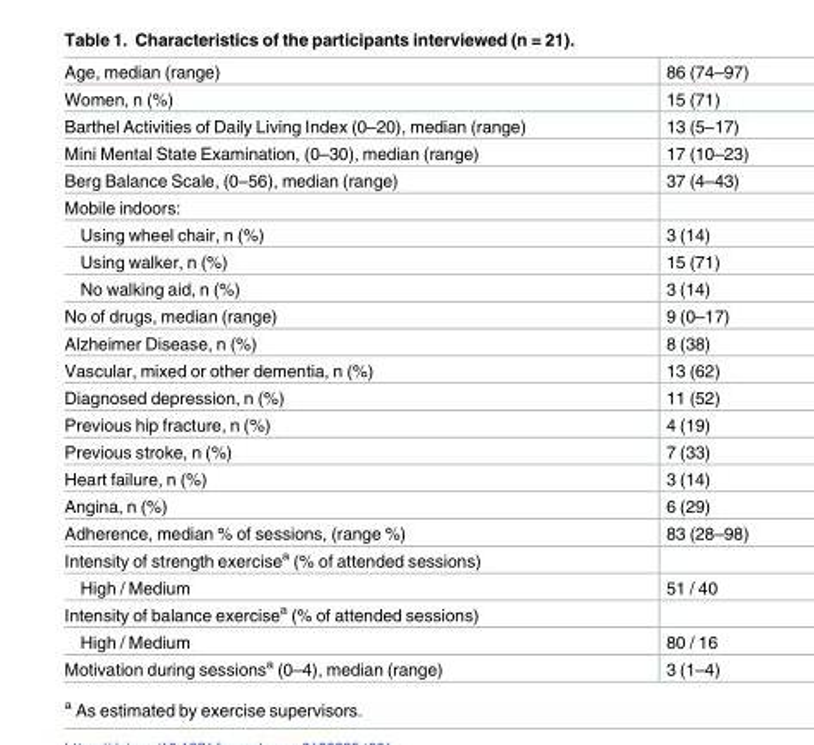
<table><tbody><tr><td>Age, median (range)</td><td>86 (74–97)</td></tr><tr><td>Women, n (%)</td><td>15 (71)</td></tr><tr><td>Barthel Activities of Daily Living Index (0–20), median (range)</td><td>13 (5–17)</td></tr><tr><td>Mini Mental State Examination, (0–30), median (range)</td><td>17 (10–23)</td></tr><tr><td>Berg Balance Scale, (0–56), median (range)</td><td>37 (4–43)</td></tr><tr><td colspan="2">Mobile indoors:</td></tr><tr><td>Using wheel chair, n (%)</td><td>3 (14)</td></tr><tr><td>Using walker, n (%)</td><td>15 (71)</td></tr><tr><td>No walking aid, n (%)</td><td>3 (14)</td></tr><tr><td>No of drugs, median (range)</td><td>9 (0–17)</td></tr><tr><td>Alzheimer Disease, n (%)</td><td>8 (38)</td></tr><tr><td>Vascular, mixed or other dementia, n (%)</td><td>13 (62)</td></tr><tr><td>Diagnosed depression, n (%)</td><td>11 (52)</td></tr><tr><td>Previous hip fracture, n (%)</td><td>4 (19)</td></tr><tr><td>Previous stroke, n (%)</td><td>7 (33)</td></tr><tr><td>Heart failure, n (%)</td><td>3 (14)</td></tr><tr><td>Angina, n (%)</td><td>6 (29)</td></tr><tr><td>Adherence, median % of sessions, (range %)</td><td>83 (28–98)</td></tr><tr><td colspan="2">Intensity of strength exercise<sup>a</sup> (% of attended sessions)</td></tr><tr><td>High / Medium</td><td>51 / 40</td></tr><tr><td colspan="2">Intensity of balance exercise<sup>a</sup> (% of attended sessions)</td></tr><tr><td>High / Medium</td><td>80 / 16</td></tr><tr><td>Motivation during sessions<sup>a</sup> (0–4), median (range)</td><td>3 (1–4)</td></tr></tbody></table>